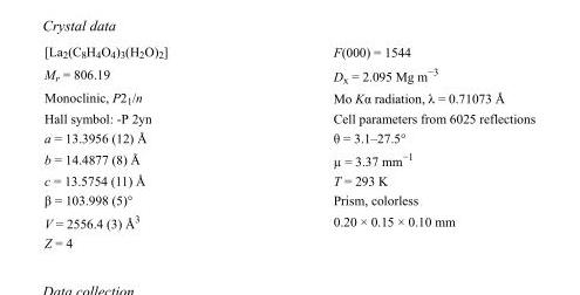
<table><tbody><tr><td>[La<sub>2</sub>(C<sub>8</sub>H<sub>4</sub>O<sub>4</sub>)<sub>3</sub>(H<sub>2</sub>O)<sub>2</sub>]</td><td>F(000) = 1544</td></tr><tr><td>M<sub>r</sub> = 806.19</td><td>D<sub>x</sub> = 2.095 Mg m<sup>−3</sup></td></tr><tr><td>Monoclinic, P2<sub>1</sub>/n</td><td>Mo Kα radiation, λ = 0.71073 Å</td></tr><tr><td>Hall symbol: -P 2yn</td><td>Cell parameters from 6025 reflections</td></tr><tr><td>a = 13.3956 (12) Å</td><td>θ = 3.1–27.5°</td></tr><tr><td>b = 14.4877 (8) Å</td><td>µ = 3.37 mm<sup>−1</sup></td></tr><tr><td>c = 13.5754 (11) Å</td><td>T = 293 K</td></tr><tr><td>β = 103.998 (5)°</td><td>Prism, colorless</td></tr><tr><td>V = 2556.4 (3) Å<sup>3</sup></td><td>0.20 × 0.15 × 0.10 mm</td></tr><tr><td>Z = 4</td><td></td></tr></tbody></table>